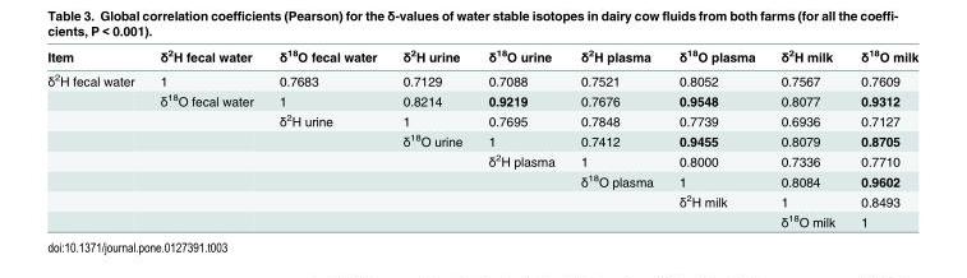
<table><thead><tr><td>Item</td><td>δ<sup>2</sup>H fecal water</td><td>δ<sup>18</sup>O fecal water</td><td>δ<sup>2</sup>H urine</td><td>δ<sup>18</sup>O urine</td><td>δ<sup>2</sup>H plasma</td><td>δ<sup>18</sup>O plasma</td><td>δ<sup>2</sup>H milk</td><td>δ<sup>18</sup>O milk</td></tr></thead><tbody><tr><td rowspan="8">δ<sup>2</sup>H fecal water</td><td>1</td><td>0.7683</td><td>0.7129</td><td>0.7088</td><td>0.7521</td><td>0.8052</td><td>0.7567</td><td>0.7609</td></tr><tr><td>δ<sup>18</sup>O fecal water</td><td>1</td><td>0.8214</td><td>0.9219</td><td>0.7676</td><td>0.9548</td><td>0.8077</td><td>0.9312</td></tr><tr><td></td><td>δ<sup>2</sup>H urine</td><td>1</td><td>0.7695</td><td>0.7848</td><td>0.7739</td><td>0.6936</td><td>0.7127</td></tr><tr><td></td><td></td><td>δ<sup>18</sup>O urine</td><td>1</td><td>0.7412</td><td>0.9455</td><td>0.8079</td><td>0.8705</td></tr><tr><td></td><td></td><td></td><td>δ<sup>2</sup>H plasma</td><td>1</td><td>0.8000</td><td>0.7336</td><td>0.7710</td></tr><tr><td></td><td></td><td></td><td></td><td>δ<sup>18</sup>O plasma</td><td>1</td><td>0.8084</td><td>0.9602</td></tr><tr><td></td><td></td><td></td><td></td><td></td><td>δ<sup>2</sup>H milk</td><td>1</td><td>0.8493</td></tr><tr><td></td><td></td><td></td><td></td><td></td><td></td><td>δ<sup>18</sup>O milk</td><td>1</td></tr></tbody></table>